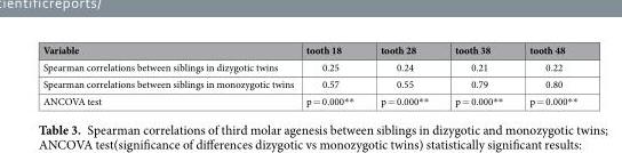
<table><thead><tr><td>Variable</td><td>tooth 18</td><td>tooth 28</td><td>tooth 38</td><td>tooth 48</td></tr></thead><tbody><tr><td>Spearman correlations between siblings in dizygotic twins</td><td>0.25</td><td>0.24</td><td>0.21</td><td>0.22</td></tr><tr><td>Spearman correlations between siblings in monozygotic twins</td><td>0.57</td><td>0.55</td><td>0.79</td><td>0.80</td></tr><tr><td>ANCOVA test</td><td>p = 0.000**</td><td>p = 0.000**</td><td>p = 0.000**</td><td>p = 0.000**</td></tr></tbody></table>